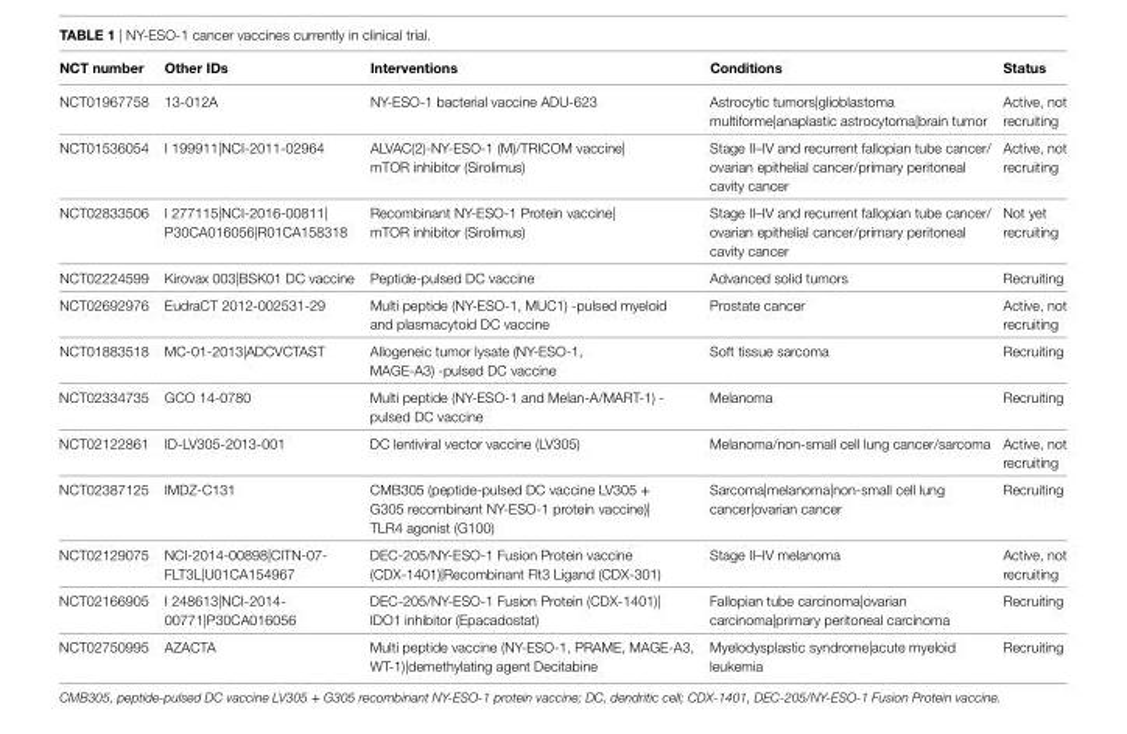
<table><thead><tr><td>NCT number</td><td>Other iDs</td><td>interventions</td><td>Conditions</td><td>Status</td></tr></thead><tbody><tr><td>NCT01967758</td><td>13-012A</td><td>NY-ESO-1 bacterial vaccine ADU-623</td><td>Astrocytic tumors|glioblastoma multiforme|anaplastic astrocytoma|brain tumor</td><td>Active, not recruiting</td></tr><tr><td>NCT01536054</td><td>I 199911|NCI-2011-02964</td><td>ALVAC(2)-NY-ESO-1 (M)/TRICOM vaccine| mTOR inhibitor (Sirolimus)</td><td>Stage II–IV and recurrent fallopian tube cancer/ ovarian epithelial cancer/primary peritoneal cavity cancer</td><td>Active, not recruiting</td></tr><tr><td>NCT02833506</td><td>I 277115|NCI-2016-00811| P30CA016056|R01CA158318</td><td>Recombinant NY-ESO-1 Protein vaccine| mTOR inhibitor (Sirolimus)</td><td>Stage II–IV and recurrent fallopian tube cancer/ ovarian epithelial cancer/primary peritoneal cavity cancer</td><td>Not yet recruiting</td></tr><tr><td>NCT02224599</td><td>Kirovax 003|BSK01 DC vaccine</td><td>Peptide-pulsed DC vaccine</td><td>Advanced solid tumors</td><td>Recruiting</td></tr><tr><td>NCT02692976</td><td>EudraCT 2012-002531-29</td><td>Multi peptide (NY-ESO-1, MUC1) -pulsed myeloid and plasmacytoid DC vaccine</td><td>Prostate cancer</td><td>Active, not recruiting</td></tr><tr><td>NCT01883518</td><td>MC-01-2013|ADCVCTAST</td><td>Allogeneic tumor lysate (NY-ESO-1, MAGE-A3) -pulsed DC vaccine</td><td>Soft tissue sarcoma</td><td>Recruiting</td></tr><tr><td>NCT02334735</td><td>GCO 14-0780</td><td>Multi peptide (NY-ESO-1 and Melan-A/MART-1) - pulsed DC vaccine</td><td>Melanoma</td><td>Recruiting</td></tr><tr><td>NCT02122861</td><td>ID-LV305-2013-001</td><td>DC lentiviral vector vaccine (LV305)</td><td>Melanoma/non-small cell lung cancer/sarcoma</td><td>Active, not recruiting</td></tr><tr><td>NCT02387125</td><td>IMDZ-C131</td><td>CMB305 (peptide-pulsed DC vaccine LV305 + G305 recombinant NY-ESO-1 protein vaccine)| TLR4 agonist (G100)</td><td>Sarcoma|melanoma|non-small cell lung cancer|ovarian cancer</td><td>Recruiting</td></tr><tr><td>NCT02129075</td><td>NCI-2014-00898|CITN-07- FLT3L|U01CA154967</td><td>DEC-205/NY-ESO-1 Fusion Protein vaccine (CDX-1401)|Recombinant Flt3 Ligand (CDX-301)</td><td>Stage II–IV melanoma</td><td>Active, not recruiting</td></tr><tr><td>NCT02166905</td><td>I 248613|NCI-2014- 00771|P30CA016056</td><td>DEC-205/NY-ESO-1 Fusion Protein (CDX-1401)| IDO1 inhibitor (Epacadostat)</td><td>Fallopian tube carcinoma|ovarian carcinoma|primary peritoneal carcinoma</td><td>Recruiting</td></tr><tr><td>NCT02750995</td><td>AZACTA</td><td>Multi peptide vaccine (NY-ESO-1, PRAME, MAGE-A3, WT-1)|demethylating agent Decitabine</td><td>Myelodysplastic syndrome|acute myeloid leukemia</td><td>Recruiting</td></tr></tbody></table>